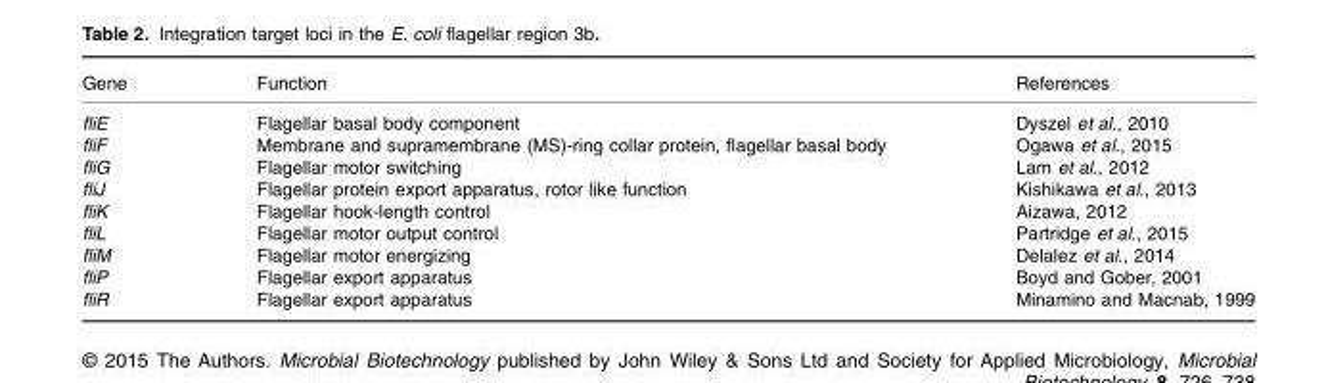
<table><thead><tr><td>Gene</td><td>Function</td><td>References</td></tr></thead><tbody><tr><td>fliE</td><td>Flagellar basal body component</td><td>Dyszel et al., 2010</td></tr><tr><td>fliF</td><td>Membrane and supramembrane (MS)-ring collar protein, flagellar basal body</td><td>Ogawa et al., 2015</td></tr><tr><td>fliG</td><td>Flagellar motor switching</td><td>Lam et al., 2012</td></tr><tr><td>fliJ</td><td>Flagellar protein export apparatus, rotor like function</td><td>Kishikawa et al., 2013</td></tr><tr><td>fliK</td><td>Flagellar hook-length control</td><td>Aizawa, 2012</td></tr><tr><td>fliL</td><td>Flagellar motor output control</td><td>Partridge et al., 2015</td></tr><tr><td>fliM</td><td>Flagellar motor energizing</td><td>Delalez et al., 2014</td></tr><tr><td>fliP</td><td>Flagellar export apparatus</td><td>Boyd and Gober, 2001</td></tr><tr><td>fliR</td><td>Flagellar export apparatus</td><td>Minamino and Macnab, 1999</td></tr></tbody></table>